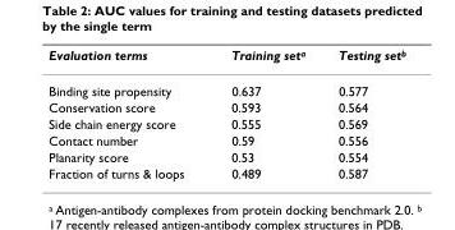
<table><thead><tr><td>Evaluation terms</td><td>Training set<sup>a</sup></td><td>Testing set<sup>b</sup></td></tr></thead><tbody><tr><td>Binding site propensity</td><td>0.637</td><td>0.577</td></tr><tr><td>Conservation score</td><td>0.593</td><td>0.564</td></tr><tr><td>Side chain energy score</td><td>0.555</td><td>0.569</td></tr><tr><td>Contact number</td><td>0.59</td><td>0.556</td></tr><tr><td>Planarity score</td><td>0.53</td><td>0.554</td></tr><tr><td>Fraction of turns &amp; loops</td><td>0.489</td><td>0.587</td></tr></tbody></table>